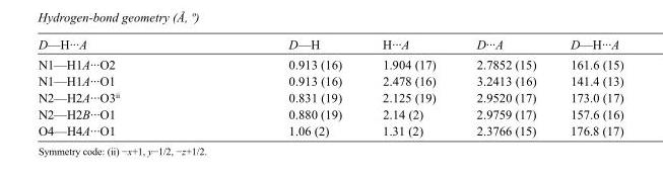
<table><tbody><tr><td>D—H···A</td><td>D—H</td><td>H···A</td><td>D···A</td><td>D—H···A</td></tr><tr><td>N1—H1A···O2</td><td>0.913 (16)</td><td>1.904 (17)</td><td>2.7852 (15)</td><td>161.6 (15)</td></tr><tr><td>N1—H1A···O1</td><td>0.913 (16)</td><td>2.478 (16)</td><td>3.2413 (16)</td><td>141.4 (13)</td></tr><tr><td>N2—H2A···O3<sup>ii</sup></td><td>0.831 (19)</td><td>2.125 (19)</td><td>2.9520 (17)</td><td>173.0 (17)</td></tr><tr><td>N2—H2B···O1</td><td>0.880 (19)</td><td>2.14 (2)</td><td>2.9759 (17)</td><td>157.6 (16)</td></tr><tr><td>O4—H4A···O1</td><td>1.06 (2)</td><td>1.31 (2)</td><td>2.3766 (15)</td><td>176.8 (17)</td></tr></tbody></table>